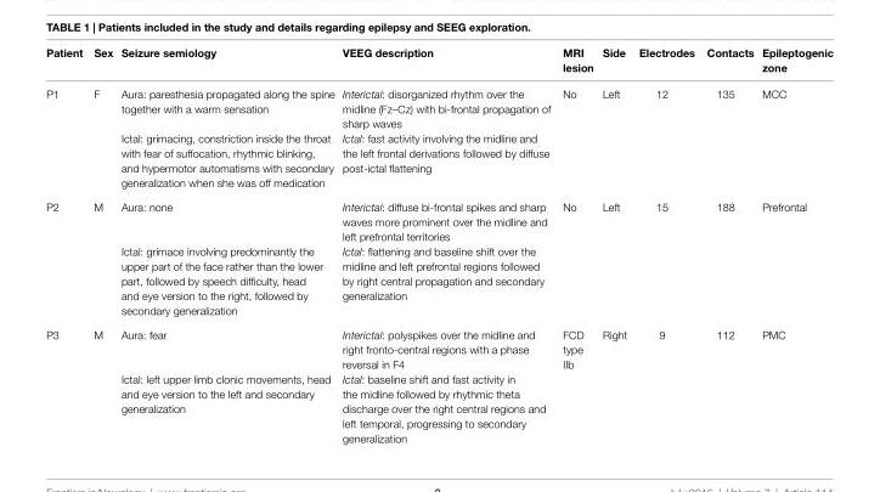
<table><thead><tr><td>Patient</td><td>sex</td><td>seizure semiology</td><td>Veeg description</td><td>Mri lesion</td><td>side</td><td>electrodes</td><td>contacts</td><td>epileptogenic zone</td></tr></thead><tbody><tr><td rowspan="2">P1</td><td rowspan="2">F</td><td>Aura: paresthesia propagated along the spine together with a warm sensation</td><td>Interictal: disorganized rhythm over the midline (Fz–Cz) with bi-frontal propagation of sharp waves</td><td rowspan="2">No</td><td rowspan="2">Left</td><td rowspan="2">12</td><td rowspan="2">135</td><td rowspan="2">MCC</td></tr><tr><td>Ictal: grimacing, constriction inside the throat with fear of suffocation, rhythmic blinking, and hypermotor automatisms with secondary generalization when she was off medication</td><td>Ictal: fast activity involving the midline and the left frontal derivations followed by diffuse post-ictal flattening</td></tr><tr><td rowspan="2">P2</td><td rowspan="2">M</td><td>Aura: none</td><td>Interictal: diffuse bi-frontal spikes and sharp waves more prominent over the midline and left prefrontal territories</td><td rowspan="2">No</td><td rowspan="2">Left</td><td rowspan="2">15</td><td rowspan="2">188</td><td rowspan="2">Prefrontal</td></tr><tr><td>Ictal: grimace involving predominantly the upper part of the face rather than the lower part, followed by speech difficulty, head and eye version to the right, followed by secondary generalization</td><td>Ictal: flattening and baseline shift over the midline and left prefrontal regions followed by right central propagation and secondary generalization</td></tr><tr><td rowspan="2">P3</td><td rowspan="2">M</td><td>Aura: fear</td><td>Interictal: polyspikes over the midline and right fronto-central regions with a phase reversal in F4</td><td rowspan="2">FCD type IIb</td><td rowspan="2">Right</td><td rowspan="2">9</td><td rowspan="2">112</td><td rowspan="2">PMC</td></tr><tr><td>Ictal: left upper limb clonic movements, head and eye version to the left and secondary generalization</td><td>Ictal: baseline shift and fast activity in the midline followed by rhythmic theta discharge over the right central regions and left temporal, progressing to secondary generalization</td></tr></tbody></table>